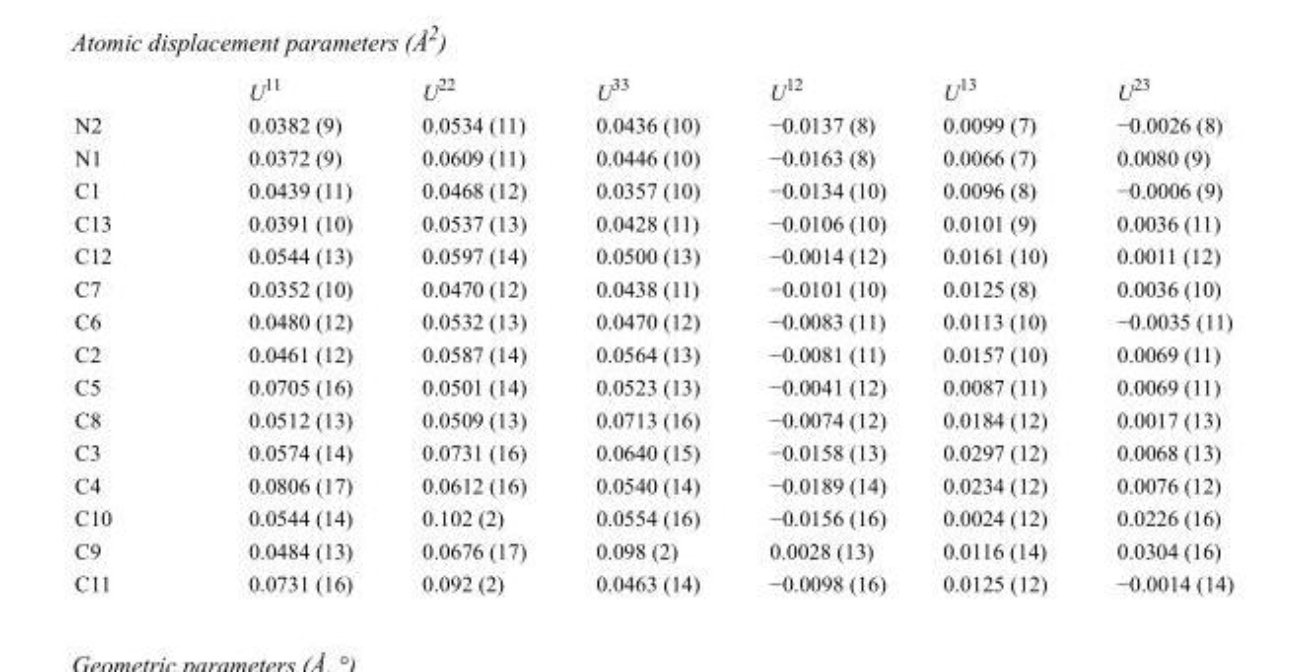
<table><thead><tr><td></td><td>U<sup>11</sup></td><td>U<sup>22</sup></td><td>U<sup>33</sup></td><td>U<sup>12</sup></td><td>U<sup>13</sup></td><td>U<sup>23</sup></td></tr></thead><tbody><tr><td>N2</td><td>0.0382 (9)</td><td>0.0534 (11)</td><td>0.0436 (10)</td><td>−0.0137 (8)</td><td>0.0099 (7)</td><td>−0.0026 (8)</td></tr><tr><td>N1</td><td>0.0372 (9)</td><td>0.0609 (11)</td><td>0.0446 (10)</td><td>−0.0163 (8)</td><td>0.0066 (7)</td><td>0.0080 (9)</td></tr><tr><td>C1</td><td>0.0439 (11)</td><td>0.0468 (12)</td><td>0.0357 (10)</td><td>−0.0134 (10)</td><td>0.0096 (8)</td><td>−0.0006 (9)</td></tr><tr><td>C13</td><td>0.0391 (10)</td><td>0.0537 (13)</td><td>0.0428 (11)</td><td>−0.0106 (10)</td><td>0.0101 (9)</td><td>0.0036 (11)</td></tr><tr><td>C12</td><td>0.0544 (13)</td><td>0.0597 (14)</td><td>0.0500 (13)</td><td>−0.0014 (12)</td><td>0.0161 (10)</td><td>0.0011 (12)</td></tr><tr><td>C7</td><td>0.0352 (10)</td><td>0.0470 (12)</td><td>0.0438 (11)</td><td>−0.0101 (10)</td><td>0.0125 (8)</td><td>0.0036 (10)</td></tr><tr><td>C6</td><td>0.0480 (12)</td><td>0.0532 (13)</td><td>0.0470 (12)</td><td>−0.0083 (11)</td><td>0.0113 (10)</td><td>−0.0035 (11)</td></tr><tr><td>C2</td><td>0.0461 (12)</td><td>0.0587 (14)</td><td>0.0564 (13)</td><td>−0.0081 (11)</td><td>0.0157 (10)</td><td>0.0069 (11)</td></tr><tr><td>C5</td><td>0.0705 (16)</td><td>0.0501 (14)</td><td>0.0523 (13)</td><td>−0.0041 (12)</td><td>0.0087 (11)</td><td>0.0069 (11)</td></tr><tr><td>C8</td><td>0.0512 (13)</td><td>0.0509 (13)</td><td>0.0713 (16)</td><td>−0.0074 (12)</td><td>0.0184 (12)</td><td>0.0017 (13)</td></tr><tr><td>C3</td><td>0.0574 (14)</td><td>0.0731 (16)</td><td>0.0640 (15)</td><td>−0.0158 (13)</td><td>0.0297 (12)</td><td>0.0068 (13)</td></tr><tr><td>C4</td><td>0.0806 (17)</td><td>0.0612 (16)</td><td>0.0540 (14)</td><td>−0.0189 (14)</td><td>0.0234 (12)</td><td>0.0076 (12)</td></tr><tr><td>C10</td><td>0.0544 (14)</td><td>0.102 (2)</td><td>0.0554 (16)</td><td>−0.0156 (16)</td><td>0.0024 (12)</td><td>0.0226 (16)</td></tr><tr><td>C9</td><td>0.0484 (13)</td><td>0.0676 (17)</td><td>0.098 (2)</td><td>0.0028 (13)</td><td>0.0116 (14)</td><td>0.0304 (16)</td></tr><tr><td>C11</td><td>0.0731 (16)</td><td>0.092 (2)</td><td>0.0463 (14)</td><td>−0.0098 (16)</td><td>0.0125 (12)</td><td>−0.0014 (14)</td></tr></tbody></table>